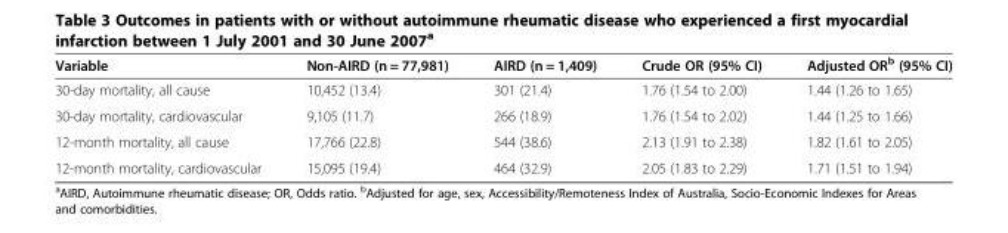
<table><thead><tr><td>Variable</td><td>Non-AIRD (n = 77,981)</td><td>AIRD (n = 1,409)</td><td>Crude OR (95% CI)</td><td>Adjusted OR<sup>b</sup> (95% CI)</td></tr></thead><tbody><tr><td>30-day mortality, all cause</td><td>10,452 (13.4)</td><td>301 (21.4)</td><td>1.76 (1.54 to 2.00)</td><td>1.44 (1.26 to 1.65)</td></tr><tr><td>30-day mortality, cardiovascular</td><td>9,105 (11.7)</td><td>266 (18.9)</td><td>1.76 (1.54 to 2.02)</td><td>1.44 (1.25 to 1.66)</td></tr><tr><td>12-month mortality, all cause</td><td>17,766 (22.8)</td><td>544 (38.6)</td><td>2.13 (1.91 to 2.38)</td><td>1.82 (1.61 to 2.05)</td></tr><tr><td>12-month mortality, cardiovascular</td><td>15,095 (19.4)</td><td>464 (32.9)</td><td>2.05 (1.83 to 2.29)</td><td>1.71 (1.51 to 1.94)</td></tr></tbody></table>